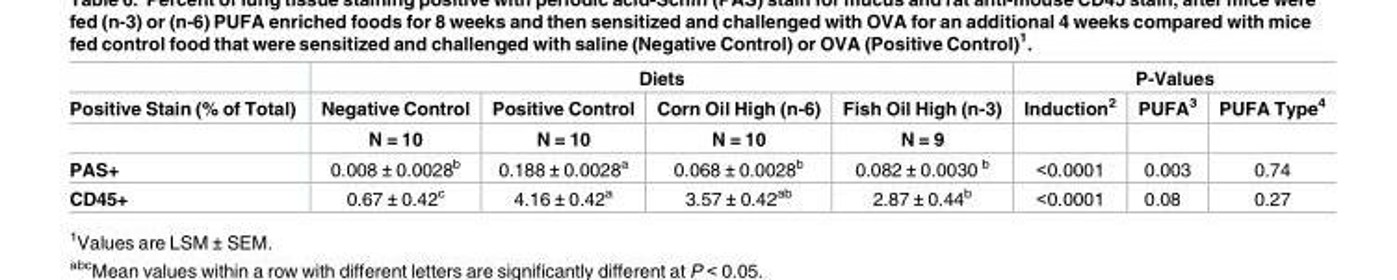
<table><thead><tr><td rowspan="3">Positive Stain (% of Total)</td><td colspan="4">Diets</td><td colspan="3">P-Values</td></tr><tr><td rowspan="2">Negative Control N = 10</td><td rowspan="2">Positive Control N = 10</td><td rowspan="2">Corn Oil High (n-6) N = 10</td><td rowspan="2">Fish Oil High (n-3) N = 9</td><td rowspan="2">Induction<sup>2</sup></td><td rowspan="2">PUFA<sup>3</sup></td><td rowspan="2">PUFA Type<sup>4</sup></td></tr><tr></tr></thead><tbody><tr><td>PAS+</td><td>0.008 ± 0.0028<sup>b</sup></td><td>0.188 ± 0.0028<sup>a</sup></td><td>0.068 ± 0.0028<sup>b</sup></td><td>0.082 ± 0.0030 <sup>b</sup></td><td>&lt;0.0001</td><td>0.003</td><td>0.74</td></tr><tr><td>CD45+</td><td>0.67 ± 0.42<sup>c</sup></td><td>4.16 ± 0.42<sup>a</sup></td><td>3.57 ± 0.42<sup>ab</sup></td><td>2.87 ± 0.44<sup>b</sup></td><td>&lt;0.0001</td><td>0.08</td><td>0.27</td></tr></tbody></table>